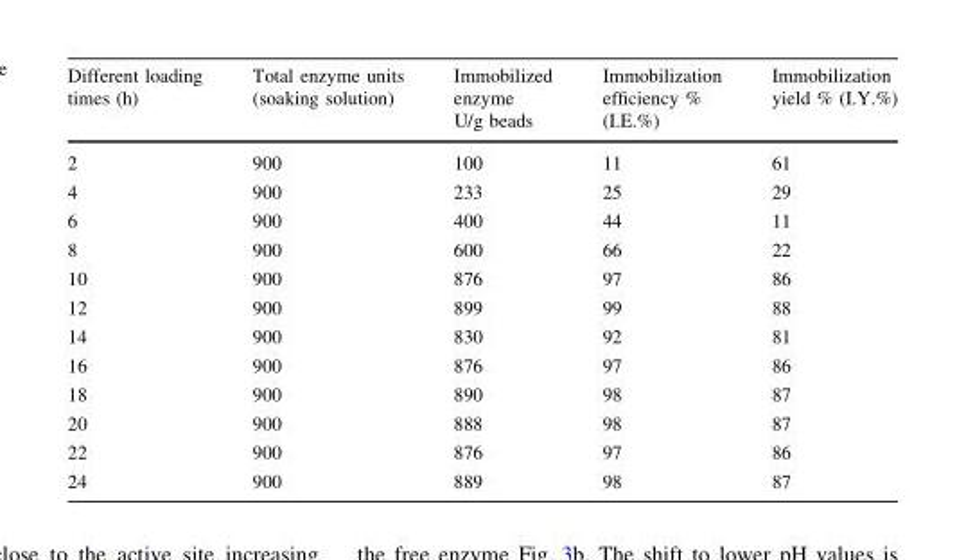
<table><thead><tr><td>Different loading times (h)</td><td>Total enzyme units (soaking solution)</td><td>Immobilized enzyme U/g beads</td><td>Immobilization efficiency % (I.E.%)</td><td>Immobilization yield % (I.Y.%)</td></tr></thead><tbody><tr><td>2</td><td>900</td><td>100</td><td>11</td><td>61</td></tr><tr><td>4</td><td>900</td><td>233</td><td>25</td><td>29</td></tr><tr><td>6</td><td>900</td><td>400</td><td>44</td><td>11</td></tr><tr><td>8</td><td>900</td><td>600</td><td>66</td><td>22</td></tr><tr><td>10</td><td>900</td><td>876</td><td>97</td><td>86</td></tr><tr><td>12</td><td>900</td><td>899</td><td>99</td><td>88</td></tr><tr><td>14</td><td>900</td><td>830</td><td>92</td><td>81</td></tr><tr><td>16</td><td>900</td><td>876</td><td>97</td><td>86</td></tr><tr><td>18</td><td>900</td><td>890</td><td>98</td><td>87</td></tr><tr><td>20</td><td>900</td><td>888</td><td>98</td><td>87</td></tr><tr><td>22</td><td>900</td><td>876</td><td>97</td><td>86</td></tr><tr><td>24</td><td>900</td><td>889</td><td>98</td><td>87</td></tr></tbody></table>